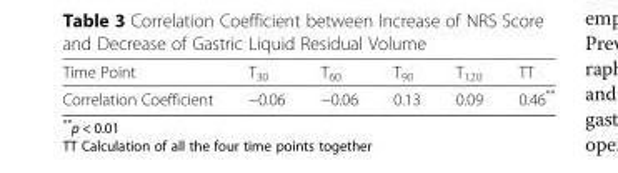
<table><thead><tr><td>Time Point</td><td>T<sub>30</sub></td><td>T<sub>60</sub></td><td>T<sub>90</sub></td><td>T<sub>120</sub></td><td>TT</td></tr></thead><tbody><tr><td>Correlation Coefficient</td><td>−0.06</td><td>−0.06</td><td>0.13</td><td>0.09</td><td>0.46**</td></tr></tbody></table>